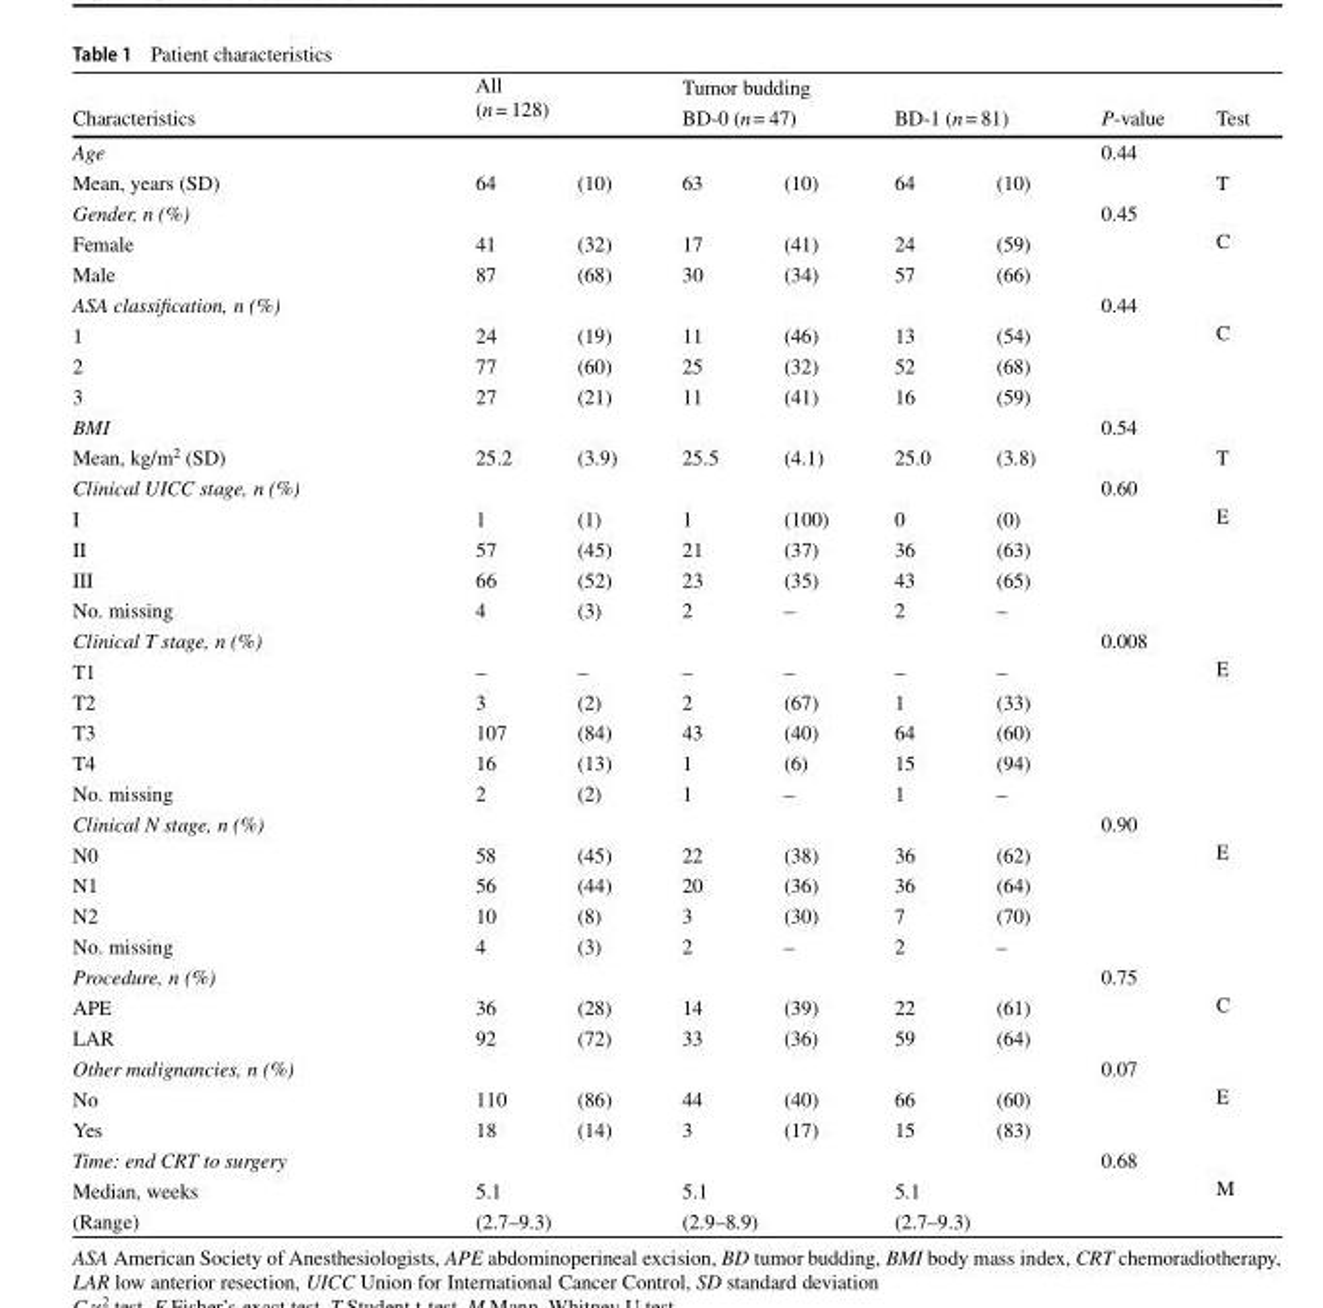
<table><thead><tr><td rowspan="2">Characteristics</td><td rowspan="2" colspan="2">All (n= 128)</td><td colspan="4">Tumor budding</td><td rowspan="4">P-value 0.44</td><td rowspan="4">Test T</td></tr><tr><td colspan="2">BD-0 (n= 47)</td><td colspan="2">BD-1 (n= 81)</td></tr><tr><td colspan="7">Age</td></tr><tr><td>Mean, years (SD)</td><td>64</td><td>(10)</td><td>63</td><td>(10)</td><td>64</td><td>(10)</td></tr></thead><tbody><tr><td colspan="7">Gender, n (%)</td><td>0.45</td><td></td></tr><tr><td>Female</td><td>41</td><td>(32)</td><td>17</td><td>(41)</td><td>24</td><td>(59)</td><td rowspan="2"></td><td rowspan="2">C</td></tr><tr><td>Male</td><td>87</td><td>(68)</td><td>30</td><td>(34)</td><td>57</td><td>(66)</td></tr><tr><td colspan="7">ASA classification, n (%)</td><td>0.44</td><td></td></tr><tr><td>1</td><td>24</td><td>(19)</td><td>11</td><td>(46)</td><td>13</td><td>(54)</td><td rowspan="3"></td><td rowspan="3">C</td></tr><tr><td>2</td><td>77</td><td>(60)</td><td>25</td><td>(32)</td><td>52</td><td>(68)</td></tr><tr><td>3</td><td>27</td><td>(21)</td><td>11</td><td>(41)</td><td>16</td><td>(59)</td></tr><tr><td colspan="7">BMI</td><td>0.54</td><td></td></tr><tr><td>Mean, kg/m<sup>2</sup> (SD)</td><td>25.2</td><td>(3.9)</td><td>25.5</td><td>(4.1)</td><td>25.0</td><td>(3.8)</td><td></td><td>T</td></tr><tr><td colspan="7">Clinical UICC stage, n (%)</td><td>0.60</td><td></td></tr><tr><td>I</td><td>1</td><td>(1)</td><td>1</td><td>(100)</td><td>0</td><td>(0)</td><td rowspan="4"></td><td rowspan="4">E</td></tr><tr><td>II</td><td>57</td><td>(45)</td><td>21</td><td>(37)</td><td>36</td><td>(63)</td></tr><tr><td>III</td><td>66</td><td>(52)</td><td>23</td><td>(35)</td><td>43</td><td>(65)</td></tr><tr><td>No. missing</td><td>4</td><td>(3)</td><td>2</td><td>–</td><td>2</td><td>–</td></tr><tr><td colspan="7">Clinical T stage, n (%)</td><td>0.008</td><td></td></tr><tr><td>T1</td><td>–</td><td>–</td><td>–</td><td>–</td><td>–</td><td>–</td><td rowspan="5"></td><td rowspan="5">E</td></tr><tr><td>T2</td><td>3</td><td>(2)</td><td>2</td><td>(67)</td><td>1</td><td>(33)</td></tr><tr><td>T3</td><td>107</td><td>(84)</td><td>43</td><td>(40)</td><td>64</td><td>(60)</td></tr><tr><td>T4</td><td>16</td><td>(13)</td><td>1</td><td>(6)</td><td>15</td><td>(94)</td></tr><tr><td>No. missing</td><td>2</td><td>(2)</td><td>1</td><td>–</td><td>1</td><td>–</td></tr><tr><td colspan="7">Clinical N stage, n (%)</td><td>0.90</td><td></td></tr><tr><td>N0</td><td>58</td><td>(45)</td><td>22</td><td>(38)</td><td>36</td><td>(62)</td><td rowspan="4"></td><td rowspan="4">E</td></tr><tr><td>N1</td><td>56</td><td>(44)</td><td>20</td><td>(36)</td><td>36</td><td>(64)</td></tr><tr><td>N2</td><td>10</td><td>(8)</td><td>3</td><td>(30)</td><td>7</td><td>(70)</td></tr><tr><td>No. missing</td><td>4</td><td>(3)</td><td>2</td><td>–</td><td>2</td><td>–</td></tr><tr><td colspan="7">Procedure, n (%)</td><td>0.75</td><td></td></tr><tr><td>APE</td><td>36</td><td>(28)</td><td>14</td><td>(39)</td><td>22</td><td>(61)</td><td rowspan="2"></td><td rowspan="2">C</td></tr><tr><td>LAR</td><td>92</td><td>(72)</td><td>33</td><td>(36)</td><td>59</td><td>(64)</td></tr><tr><td colspan="7">Other malignancies, n (%)</td><td>0.07</td><td></td></tr><tr><td>No</td><td>110</td><td>(86)</td><td>44</td><td>(40)</td><td>66</td><td>(60)</td><td rowspan="2"></td><td rowspan="2">E</td></tr><tr><td>Yes</td><td>18</td><td>(14)</td><td>3</td><td>(17)</td><td>15</td><td>(83)</td></tr><tr><td colspan="7">Time: end CRT to surgery</td><td>0.68</td><td></td></tr><tr><td>Median, weeks</td><td colspan="2">5.1</td><td colspan="2">5.1</td><td colspan="2">5.1</td><td rowspan="2"></td><td rowspan="2">M</td></tr><tr><td>(Range)</td><td colspan="2">(2.7–9.3)</td><td colspan="2">(2.9–8.9)</td><td colspan="2">(2.7–9.3)</td></tr></tbody></table>